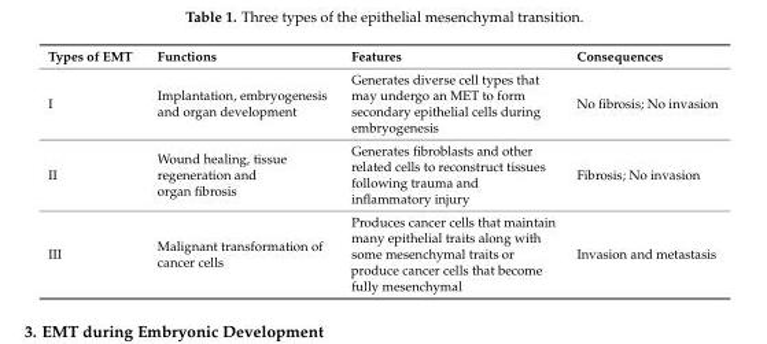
<table><thead><tr><td>Types of EMT</td><td>Functions</td><td>Features</td><td>Consequences</td></tr></thead><tbody><tr><td>I</td><td>Implantation, embryogenesis and organ development</td><td>Generates diverse cell types that may undergo an MET to form secondary epithelial cells during embryogenesis</td><td>No fibrosis; No invasion</td></tr><tr><td>II</td><td>Wound healing, tissue regeneration and organ fibrosis</td><td>Generates fibroblasts and other related cells to reconstruct tissues following trauma and inflammatory injury</td><td>Fibrosis; No invasion</td></tr><tr><td>III</td><td>Malignant transformation of cancer cells</td><td>Produces cancer cells that maintain many epithelial traits along with some mesenchymal traits or produce cancer cells that become fully mesenchymal</td><td>Invasion and metastasis</td></tr></tbody></table>